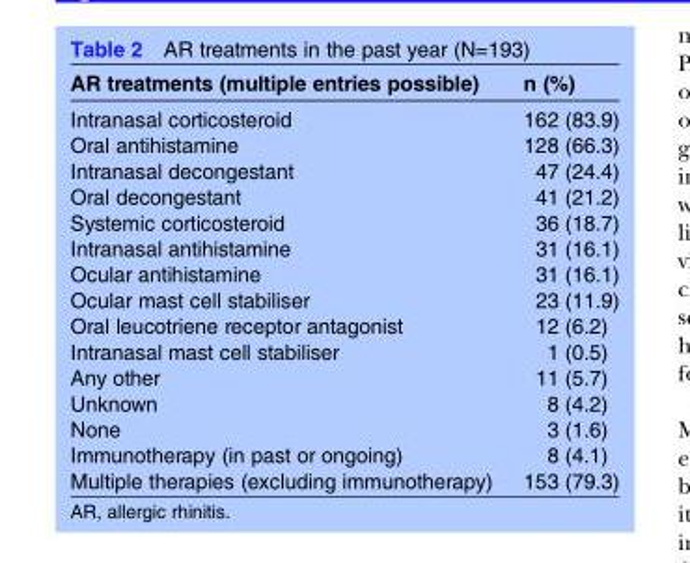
<table><thead><tr><td>AR treatments (multiple entries possible)</td><td>n (%)</td></tr></thead><tbody><tr><td>Intranasal corticosteroid</td><td>162 (83.9)</td></tr><tr><td>Oral antihistamine</td><td>128 (66.3)</td></tr><tr><td>Intranasal decongestant</td><td>47 (24.4)</td></tr><tr><td>Oral decongestant</td><td>41 (21.2)</td></tr><tr><td>Systemic corticosteroid</td><td>36 (18.7)</td></tr><tr><td>Intranasal antihistamine</td><td>31 (16.1)</td></tr><tr><td>Ocular antihistamine</td><td>31 (16.1)</td></tr><tr><td>Ocular mast cell stabiliser</td><td>23 (11.9)</td></tr><tr><td>Oral leucotriene receptor antagonist</td><td>12 (6.2)</td></tr><tr><td>Intranasal mast cell stabiliser</td><td>1 (0.5)</td></tr><tr><td>Any other</td><td>11 (5.7)</td></tr><tr><td>Unknown</td><td>8 (4.2)</td></tr><tr><td>None</td><td>3 (1.6)</td></tr><tr><td>Immunotherapy (in past or ongoing)</td><td>8 (4.1)</td></tr><tr><td>Multiple therapies (excluding immunotherapy)</td><td>153 (79.3)</td></tr></tbody></table>